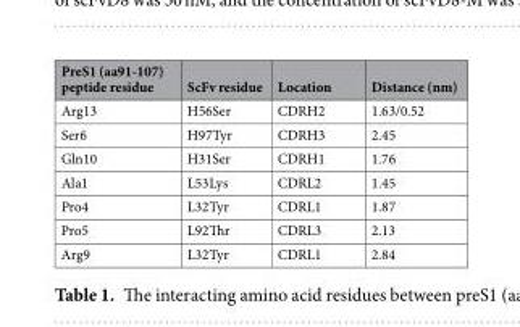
<table><thead><tr><td>PreS1 (aa91-107) peptide residue</td><td>ScFv residue</td><td>Location</td><td>Distance (nm)</td></tr></thead><tbody><tr><td>Arg13</td><td>H56Ser</td><td>CDRH2</td><td>1.63/0.52</td></tr><tr><td>Ser6</td><td>H97Tyr</td><td>CDRH3</td><td>2.45</td></tr><tr><td>Gln10</td><td>H31Ser</td><td>CDRH1</td><td>1.76</td></tr><tr><td>Ala1</td><td>L53Lys</td><td>CDRL2</td><td>1.45</td></tr><tr><td>Pro4</td><td>L32Tyr</td><td>CDRL1</td><td>1.87</td></tr><tr><td>Pro5</td><td>L92Thr</td><td>CDRL3</td><td>2.13</td></tr><tr><td>Arg9</td><td>L32Tyr</td><td>CDRL1</td><td>2.84</td></tr></tbody></table>